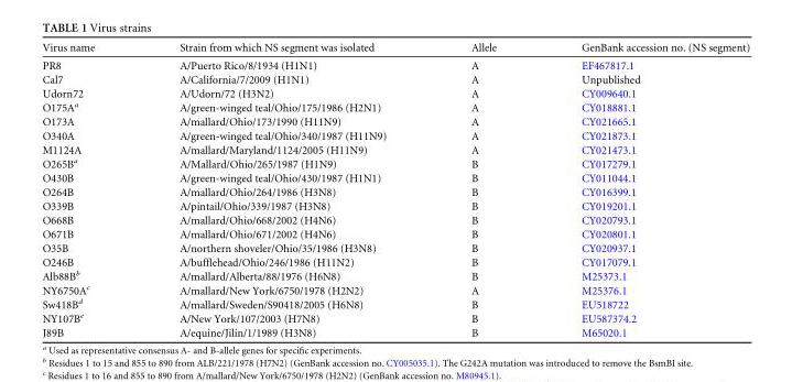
<table><thead><tr><td>Virus name</td><td>Strain from which NS segment was isolated</td><td>Allele</td><td>GenBank accession no. (NS segment)</td></tr></thead><tbody><tr><td>PR8</td><td>A/Puerto Rico/8/1934 (H1N1)</td><td>A</td><td>EF467817.1</td></tr><tr><td>Cal7</td><td>A/California/7/2009 (H1N1)</td><td>A</td><td>Unpublished</td></tr><tr><td>Udorn72</td><td>A/Udorn/72 (H3N2)</td><td>A</td><td>CY009640.1</td></tr><tr><td>O175A<sup>a</sup></td><td>A/green-winged teal/Ohio/175/1986 (H2N1)</td><td>A</td><td>CY018881.1</td></tr><tr><td>O173A</td><td>A/mallard/Ohio/173/1990 (H11N9)</td><td>A</td><td>CY021665.1</td></tr><tr><td>O340A</td><td>A/green-winged teal/Ohio/340/1987 (H11N9)</td><td>A</td><td>CY021873.1</td></tr><tr><td>M1124A</td><td>A/mallard/Maryland/1124/2005 (H11N9)</td><td>A</td><td>CY021473.1</td></tr><tr><td>O265B<sup>a</sup></td><td>A/Mallard/Ohio/265/1987 (H1N9)</td><td>B</td><td>CY017279.1</td></tr><tr><td>O430B</td><td>A/green-winged teal/Ohio/430/1987 (H1N1)</td><td>B</td><td>CY011044.1</td></tr><tr><td>O264B</td><td>A/mallard/Ohio/264/1986 (H3N8)</td><td>B</td><td>CY016399.1</td></tr><tr><td>O339B</td><td>A/pintail/Ohio/339/1987 (H3N8)</td><td>B</td><td>CY019201.1</td></tr><tr><td>O668B</td><td>A/mallard/Ohio/668/2002 (H4N6)</td><td>B</td><td>CY020793.1</td></tr><tr><td>O671B</td><td>A/mallard/Ohio/671/2002 (H4N6)</td><td>B</td><td>CY020801.1</td></tr><tr><td>O35B</td><td>A/northern shoveler/Ohio/35/1986 (H3N8)</td><td>B</td><td>CY020937.1</td></tr><tr><td>O246B</td><td>A/bufflehead/Ohio/246/1986 (H11N2)</td><td>B</td><td>CY017079.1</td></tr><tr><td>Alb88B<sup>b</sup></td><td>A/mallard/Alberta/88/1976 (H6N8)</td><td>B</td><td>M25373.1</td></tr><tr><td>NY6750A<sup>c</sup></td><td>A/mallard/New York/6750/1978 (H2N2)</td><td>A</td><td>M25376.1</td></tr><tr><td>Sw418B<sup>d</sup></td><td>A/mallard/Sweden/S90418/2005 (H6N8)</td><td>B</td><td>EU518722</td></tr><tr><td>NY107B<sup>e</sup></td><td>A/New York/107/2003 (H7N8)</td><td>B</td><td>EU587374.2</td></tr><tr><td>J89B</td><td>A/equine/Jilin/1/1989 (H3N8)</td><td>B</td><td>M65020.1</td></tr></tbody></table>